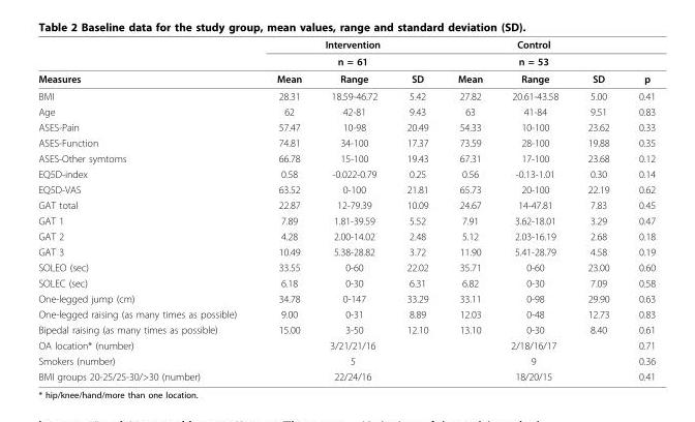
<table><thead><tr><td rowspan="3">Measures</td><td rowspan="2" colspan="3">Intervention n = 61</td><td rowspan="2" colspan="3">Control n = 53</td><td rowspan="3">p</td></tr><tr></tr><tr><td>Mean</td><td>Range</td><td>SD</td><td>Mean</td><td>Range</td><td>SD</td></tr></thead><tbody><tr><td>BMI</td><td>28.31</td><td>18.59-46.72</td><td>5.42</td><td>27.82</td><td>20.61-43.58</td><td>5.00</td><td>0.41</td></tr><tr><td>Age</td><td>62</td><td>42-81</td><td>9.43</td><td>63</td><td>41-84</td><td>9.51</td><td>0.83</td></tr><tr><td>ASES-Pain</td><td>57.47</td><td>10-98</td><td>20.49</td><td>54.33</td><td>10-100</td><td>23.62</td><td>0.33</td></tr><tr><td>ASES-Function</td><td>74.81</td><td>34-100</td><td>17.37</td><td>73.59</td><td>28-100</td><td>19.88</td><td>0.35</td></tr><tr><td>ASES-Other symtoms</td><td>66.78</td><td>15-100</td><td>19.43</td><td>67.31</td><td>17-100</td><td>23.68</td><td>0.12</td></tr><tr><td>EQ5D-index</td><td>0.58</td><td>-0.022-0.79</td><td>0.25</td><td>0.56</td><td>-0.13-1.01</td><td>0.30</td><td>0.14</td></tr><tr><td>EQ5D-VAS</td><td>63.52</td><td>0-100</td><td>21.81</td><td>65.73</td><td>20-100</td><td>22.19</td><td>0.62</td></tr><tr><td>GAT total</td><td>22.87</td><td>12-79.39</td><td>10.09</td><td>24.67</td><td>14-47.81</td><td>7.83</td><td>0.45</td></tr><tr><td>GAT 1</td><td>7.89</td><td>1.81-39.59</td><td>5.52</td><td>7.91</td><td>3.62-18.01</td><td>3.29</td><td>0.47</td></tr><tr><td>GAT 2</td><td>4.28</td><td>2.00-14.02</td><td>2.48</td><td>5.12</td><td>2.03-16.19</td><td>2.68</td><td>0.18</td></tr><tr><td>GAT 3</td><td>10.49</td><td>5.38-28.82</td><td>3.72</td><td>11.90</td><td>5.41-28.79</td><td>4.58</td><td>0.19</td></tr><tr><td>SOLEO (sec)</td><td>33.55</td><td>0-60</td><td>22.02</td><td>35.71</td><td>0-60</td><td>23.00</td><td>0.60</td></tr><tr><td>SOLEC (sec)</td><td>6.18</td><td>0-30</td><td>6.31</td><td>6.82</td><td>0-30</td><td>7.09</td><td>0.58</td></tr><tr><td>One-legged jump (cm)</td><td>34.78</td><td>0-147</td><td>33.29</td><td>33.11</td><td>0-98</td><td>29.90</td><td>0.63</td></tr><tr><td>One-legged raising (as many times as possible)</td><td>9.00</td><td>0-31</td><td>8.89</td><td>12.03</td><td>0-48</td><td>12.73</td><td>0.83</td></tr><tr><td>Bipedal raising (as many times as possible)</td><td>15.00</td><td>3-50</td><td>12.10</td><td>13.10</td><td>0-30</td><td>8.40</td><td>0.61</td></tr><tr><td>OA location* (number)</td><td colspan="3">3/21/21/16</td><td colspan="3">2/18/16/17</td><td>0.71</td></tr><tr><td>Smokers (number)</td><td colspan="3">5</td><td colspan="3">9</td><td>0.36</td></tr><tr><td>BMI groups 20-25/25-30/&gt;30 (number)</td><td colspan="3">22/24/16</td><td colspan="3">18/20/15</td><td>0.41</td></tr></tbody></table>